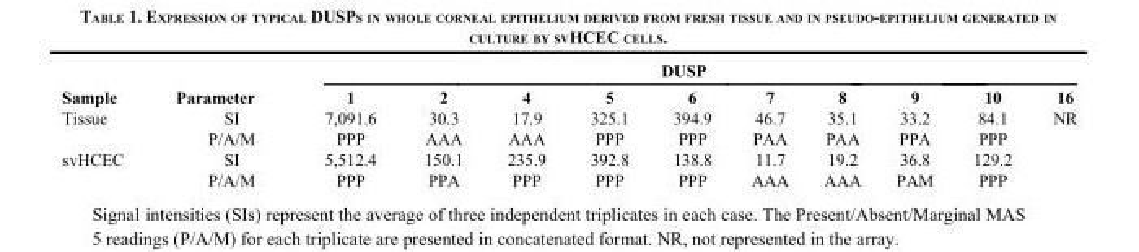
<table><thead><tr><td rowspan="2">Sample</td><td rowspan="2">Parameter</td><td colspan="10">DUSP</td></tr><tr><td>1</td><td>2</td><td>4</td><td>5</td><td>6</td><td>7</td><td>8</td><td>9</td><td>10</td><td>16</td></tr></thead><tbody><tr><td rowspan="2">Tissue</td><td>SI</td><td>7,091.6</td><td>30.3</td><td>17.9</td><td>325.1</td><td>394.9</td><td>46.7</td><td>35.1</td><td>33.2</td><td>84.1</td><td>NR</td></tr><tr><td>P/A/M</td><td>PPP</td><td>AAA</td><td>AAA</td><td>PPP</td><td>PPP</td><td>PAA</td><td>PAA</td><td>PPA</td><td>PPP</td><td></td></tr><tr><td rowspan="2">svHCEC</td><td>SI</td><td>5,512.4</td><td>150.1</td><td>235.9</td><td>392.8</td><td>138.8</td><td>11.7</td><td>19.2</td><td>36.8</td><td>129.2</td><td></td></tr><tr><td>P/A/M</td><td>PPP</td><td>PPA</td><td>PPP</td><td>PPP</td><td>PPP</td><td>AAA</td><td>AAA</td><td>PAM</td><td>PPP</td><td></td></tr></tbody></table>